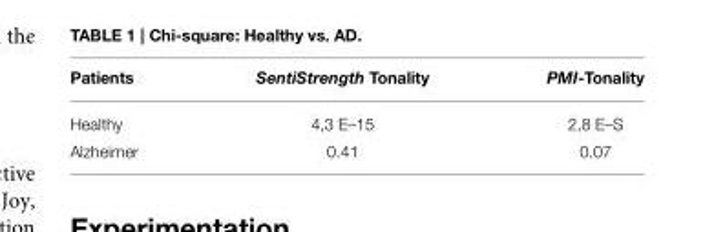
<table><thead><tr><td>Patients</td><td>SentiStrength Tonality</td><td>PMI-Tonality</td></tr></thead><tbody><tr><td>Healthy</td><td>4,3 E–15</td><td>2,8 E–S</td></tr><tr><td>Alzheimer</td><td>0.41</td><td>0.07</td></tr></tbody></table>